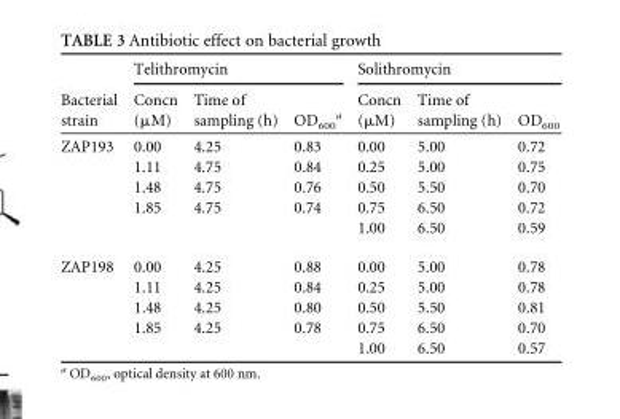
<table><thead><tr><td rowspan="2">Bacterial strain</td><td colspan="3">Telithromycin</td><td colspan="3">Solithromycin</td></tr><tr><td>Concn (μM)</td><td>Time of sampling (h)</td><td>OD<sub>600</sub> <sup>a</sup></td><td>Concn (μM)</td><td>Time of sampling (h)</td><td>OD<sub>600</sub></td></tr></thead><tbody><tr><td rowspan="5">ZAP193</td><td>0.00</td><td>4.25</td><td>0.83</td><td>0.00</td><td>5.00</td><td>0.72</td></tr><tr><td>1.11</td><td>4.75</td><td>0.84</td><td>0.25</td><td>5.00</td><td>0.75</td></tr><tr><td>1.48</td><td>4.75</td><td>0.76</td><td>0.50</td><td>5.50</td><td>0.70</td></tr><tr><td>1.85</td><td>4.75</td><td>0.74</td><td>0.75</td><td>6.50</td><td>0.72</td></tr><tr><td></td><td></td><td></td><td>1.00</td><td>6.50</td><td>0.59</td></tr><tr><td rowspan="5">ZAP198</td><td>0.00</td><td>4.25</td><td>0.88</td><td>0.00</td><td>5.00</td><td>0.78</td></tr><tr><td>1.11</td><td>4.25</td><td>0.84</td><td>0.25</td><td>5.00</td><td>0.78</td></tr><tr><td>1.48</td><td>4.25</td><td>0.80</td><td>0.50</td><td>5.50</td><td>0.81</td></tr><tr><td>1.85</td><td>4.25</td><td>0.78</td><td>0.75</td><td>6.50</td><td>0.70</td></tr><tr><td></td><td></td><td></td><td>1.00</td><td>6.50</td><td>0.57</td></tr></tbody></table>